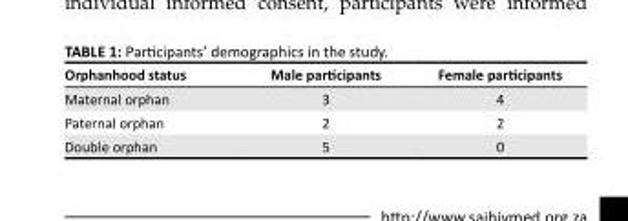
<table><thead><tr><td>Orphanhood status</td><td>Male participants</td><td>Female participants</td></tr></thead><tbody><tr><td>Maternal orphan</td><td>3</td><td>4</td></tr><tr><td>Paternal orphan</td><td>2</td><td>2</td></tr><tr><td>Double orphan</td><td>5</td><td>0</td></tr></tbody></table>